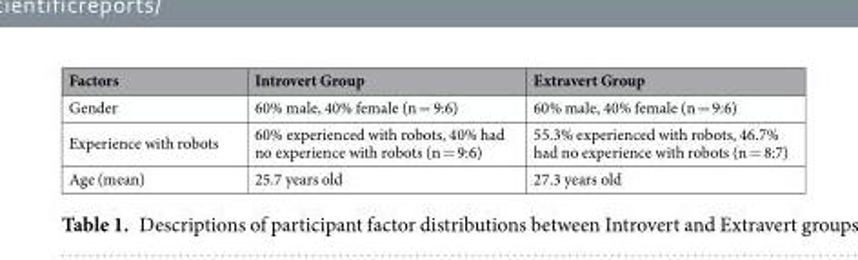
<table><thead><tr><td>Factors</td><td>Introvert Group</td><td>Extravert Group</td></tr></thead><tbody><tr><td>Gender</td><td>60% male, 40% female (n = 9:6)</td><td>60% male, 40% female (n = 9:6)</td></tr><tr><td>Experience with robots</td><td>60% experienced with robots, 40% had no experience with robots (n = 9:6)</td><td>55.3% experienced with robots, 46.7% had no experience with robots (n = 8:7)</td></tr><tr><td>Age (mean)</td><td>25.7 years old</td><td>27.3 years old</td></tr></tbody></table>